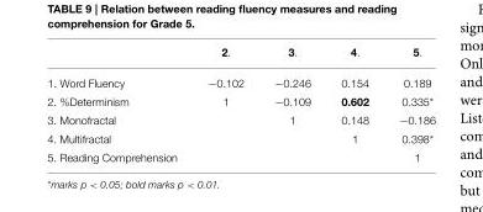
<table><thead><tr><td></td><td>2.</td><td>3.</td><td>4.</td><td>5.</td></tr></thead><tbody><tr><td>1. Word Fluency</td><td>−0.102</td><td>−0.246</td><td>0.154</td><td>0.189</td></tr><tr><td>2. %Determinism</td><td>1</td><td>−0.109</td><td>0.602</td><td>0.335*</td></tr><tr><td>3. Monofractal</td><td></td><td>1</td><td>0.148</td><td>−0.186</td></tr><tr><td>4. Multifractal</td><td></td><td></td><td>1</td><td>0.398*</td></tr><tr><td>5. Reading Comprehension</td><td></td><td></td><td></td><td>1</td></tr></tbody></table>